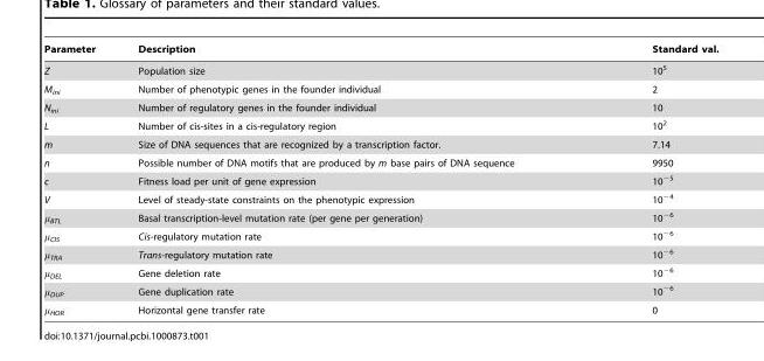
<table><thead><tr><td>Parameter</td><td>Description</td><td>Standard val.</td></tr></thead><tbody><tr><td>Z</td><td>Population size</td><td>10<sup>5</sup></td></tr><tr><td>M<sub>ini</sub></td><td>Number of phenotypic genes in the founder individual</td><td>2</td></tr><tr><td>N<sub>ini</sub></td><td>Number of regulatory genes in the founder individual</td><td>10</td></tr><tr><td>L</td><td>Number of cis-sites in a cis-regulatory region</td><td>10<sup>2</sup></td></tr><tr><td>m</td><td>Size of DNA sequences that are recognized by a transcription factor.</td><td>7.14</td></tr><tr><td>n</td><td>Possible number of DNA motifs that are produced by m base pairs of DNA sequence</td><td>9950</td></tr><tr><td>c</td><td>Fitness load per unit of gene expression</td><td>10<sup>−5</sup></td></tr><tr><td>V</td><td>Level of steady-state constraints on the phenotypic expression</td><td>10<sup>−4</sup></td></tr><tr><td>μ<sub>BTL</sub></td><td>Basal transcription-level mutation rate (per gene per generation)</td><td>10<sup>−6</sup></td></tr><tr><td>μ<sub>CIS</sub></td><td>Cis-regulatory mutation rate</td><td>10<sup>−6</sup></td></tr><tr><td>μ<sub>TRA</sub></td><td>Trans-regulatory mutation rate</td><td>10<sup>−6</sup></td></tr><tr><td>μ<sub>DEL</sub></td><td>Gene deletion rate</td><td>10<sup>−6</sup></td></tr><tr><td>μ<sub>DUP</sub></td><td>Gene duplication rate</td><td>10<sup>−6</sup></td></tr><tr><td>μ<sub>HOR</sub></td><td>Horizontal gene transfer rate</td><td>0</td></tr></tbody></table>